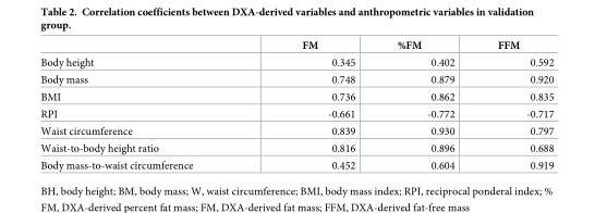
<table><thead><tr><td></td><td>FM</td><td>%FM</td><td>FFM</td></tr></thead><tbody><tr><td>Body height</td><td>0.345</td><td>0.402</td><td>0.592</td></tr><tr><td>Body mass</td><td>0.748</td><td>0.879</td><td>0.920</td></tr><tr><td>BMI</td><td>0.736</td><td>0.862</td><td>0.835</td></tr><tr><td>RPI</td><td>-0.661</td><td>-0.772</td><td>-0.717</td></tr><tr><td>Waist circumference</td><td>0.839</td><td>0.930</td><td>0.797</td></tr><tr><td>Waist-to-body height ratio</td><td>0.816</td><td>0.896</td><td>0.688</td></tr><tr><td>Body mass-to-waist circumference</td><td>0.452</td><td>0.604</td><td>0.919</td></tr></tbody></table>